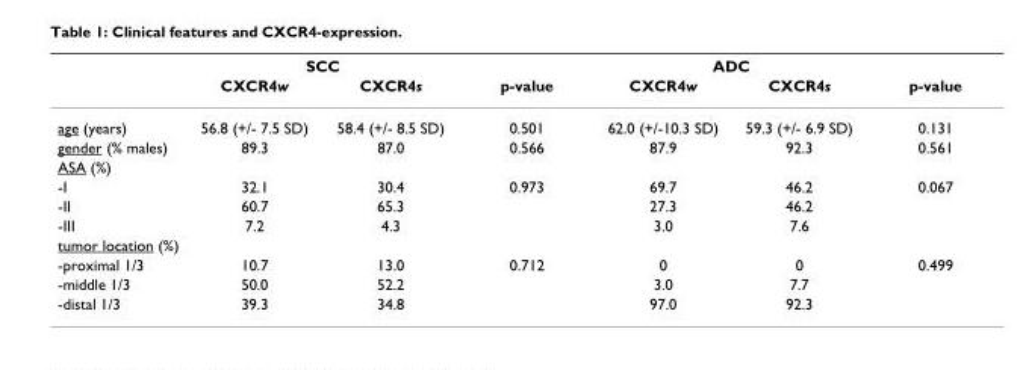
<table><thead><tr><td rowspan="2"></td><td colspan="2">SCC</td><td rowspan="2">p-value</td><td colspan="2">ADC</td><td rowspan="2">p-value</td></tr><tr><td>CXCR4w</td><td>CXCR4s</td><td>CXCR4w</td><td>CXCR4s</td></tr></thead><tbody><tr><td>age (years)</td><td>56.8 (+/- 7.5 SD)</td><td>58.4 (+/- 8.5 SD)</td><td>0.501</td><td>62.0 (+/-10.3 SD)</td><td>59.3 (+/- 6.9 SD)</td><td>0.131</td></tr><tr><td>gender (% males)</td><td>89.3</td><td>87.0</td><td>0.566</td><td>87.9</td><td>92.3</td><td>0.561</td></tr><tr><td colspan="7">ASA (%)</td></tr><tr><td>-I</td><td>32.1</td><td>30.4</td><td>0.973</td><td>69.7</td><td>46.2</td><td>0.067</td></tr><tr><td>-II</td><td>60.7</td><td>65.3</td><td></td><td>27.3</td><td>46.2</td><td></td></tr><tr><td>-III</td><td>7.2</td><td>4.3</td><td></td><td>3.0</td><td>7.6</td><td></td></tr><tr><td colspan="7">tumor location (%)</td></tr><tr><td>-proximal 1/3</td><td>10.7</td><td>13.0</td><td>0.712</td><td>0</td><td>0</td><td>0.499</td></tr><tr><td>-middle 1/3</td><td>50.0</td><td>52.2</td><td></td><td>3.0</td><td>7.7</td><td></td></tr><tr><td>-distal 1/3</td><td>39.3</td><td>34.8</td><td></td><td>97.0</td><td>92.3</td><td></td></tr></tbody></table>